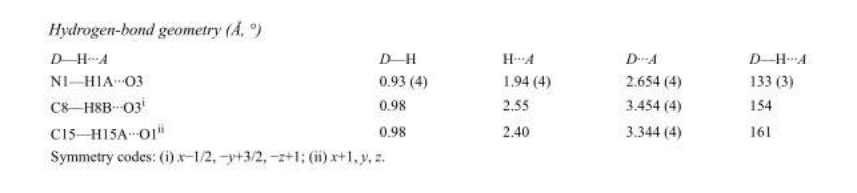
<table><tbody><tr><td>D—H···A</td><td>D—H</td><td>H···A</td><td>D···A</td><td>D—H···A</td></tr><tr><td>N1—H1A···O3</td><td>0.93 (4)</td><td>1.94 (4)</td><td>2.654 (4)</td><td>133 (3)</td></tr><tr><td>C8—H8B···O3<sup>i</sup></td><td>0.98</td><td>2.55</td><td>3.454 (4)</td><td>154</td></tr><tr><td>C15—H15A···O1<sup>ii</sup></td><td>0.98</td><td>2.40</td><td>3.344 (4)</td><td>161</td></tr></tbody></table>